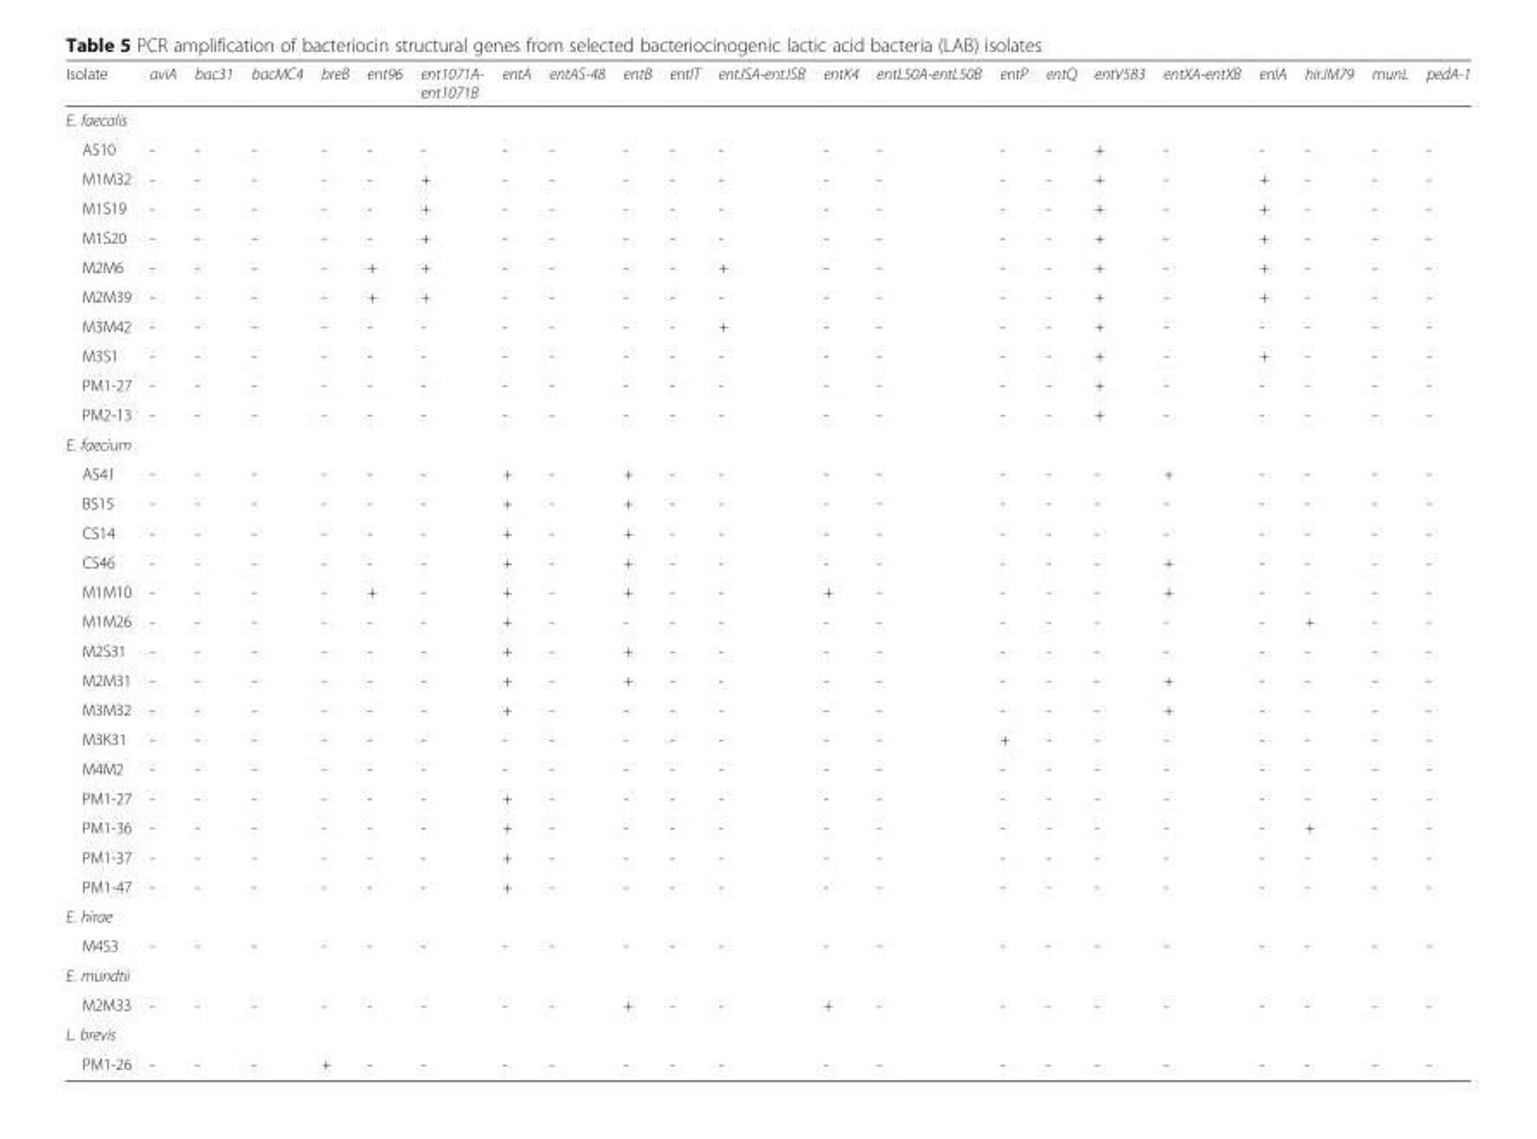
<table><thead><tr><td>Isolate</td><td>aviA</td><td>bac31</td><td>bacMC4</td><td>breB</td><td>ent96</td><td>ent1071A- ent1071B</td><td>entA</td><td>entAS-48</td><td>entB</td><td>entIT</td><td>entJSA-entJSB</td><td>entK4</td><td>entL50A-entL50B</td><td>entP</td><td>entQ</td><td>entV583</td><td>entXA-entXB</td><td>enlA</td><td>hirJM79</td><td>munL</td><td>pedA-1</td></tr></thead><tbody><tr><td colspan="22">E. faecalis</td></tr><tr><td>AS10</td><td>-</td><td>-</td><td>-</td><td>-</td><td>-</td><td>-</td><td>-</td><td>-</td><td>-</td><td>-</td><td>-</td><td>-</td><td>-</td><td>-</td><td>-</td><td>+</td><td>-</td><td>-</td><td>-</td><td>-</td><td>-</td></tr><tr><td>M1M32</td><td>-</td><td>-</td><td>-</td><td>-</td><td>-</td><td>+</td><td>-</td><td>-</td><td>-</td><td>-</td><td>-</td><td>-</td><td>-</td><td>-</td><td>-</td><td>+</td><td>-</td><td>+</td><td>-</td><td>-</td><td>-</td></tr><tr><td>M1S19</td><td>-</td><td>-</td><td>-</td><td>-</td><td>-</td><td>+</td><td>-</td><td>-</td><td>-</td><td>-</td><td>-</td><td>-</td><td>-</td><td>-</td><td>-</td><td>+</td><td>-</td><td>+</td><td>-</td><td>-</td><td>-</td></tr><tr><td>M1S20</td><td>-</td><td>-</td><td>-</td><td>-</td><td>-</td><td>+</td><td>-</td><td>-</td><td>-</td><td>-</td><td>-</td><td>-</td><td>-</td><td>-</td><td>-</td><td>+</td><td>-</td><td>+</td><td>-</td><td>-</td><td>-</td></tr><tr><td>M2M6</td><td>-</td><td>-</td><td>-</td><td>-</td><td>+</td><td>+</td><td>-</td><td>-</td><td>-</td><td>-</td><td>+</td><td>-</td><td>-</td><td>-</td><td>-</td><td>+</td><td>-</td><td>+</td><td>-</td><td>-</td><td>-</td></tr><tr><td>M2M39</td><td>-</td><td>-</td><td>-</td><td>-</td><td>+</td><td>+</td><td>-</td><td>-</td><td>-</td><td>-</td><td>-</td><td>-</td><td>-</td><td>-</td><td>-</td><td>+</td><td>-</td><td>+</td><td>-</td><td>-</td><td>-</td></tr><tr><td>M3M42</td><td>-</td><td>-</td><td>-</td><td>-</td><td>-</td><td>-</td><td>-</td><td>-</td><td>-</td><td>-</td><td>+</td><td>-</td><td>-</td><td>-</td><td>-</td><td>+</td><td>-</td><td>-</td><td>-</td><td>-</td><td>-</td></tr><tr><td>M3S1</td><td>-</td><td>-</td><td>-</td><td>-</td><td>-</td><td>-</td><td>-</td><td>-</td><td>-</td><td>-</td><td>-</td><td>-</td><td>-</td><td>-</td><td>-</td><td>+</td><td>-</td><td>+</td><td>-</td><td>-</td><td>-</td></tr><tr><td>PM1-27</td><td>-</td><td>-</td><td>-</td><td>-</td><td>-</td><td>-</td><td>-</td><td>-</td><td>-</td><td>-</td><td>-</td><td>-</td><td>-</td><td>-</td><td>-</td><td>+</td><td>-</td><td>-</td><td>-</td><td>-</td><td>-</td></tr><tr><td>PM2-13</td><td>-</td><td>-</td><td>-</td><td>-</td><td>-</td><td>-</td><td>-</td><td>-</td><td>-</td><td>-</td><td>-</td><td>-</td><td>-</td><td>-</td><td>-</td><td>+</td><td>-</td><td>-</td><td>-</td><td>-</td><td>-</td></tr><tr><td colspan="22">E. faecium</td></tr><tr><td>AS41</td><td>-</td><td>-</td><td>-</td><td>-</td><td>-</td><td>-</td><td>+</td><td>-</td><td>+</td><td>-</td><td>-</td><td>-</td><td>-</td><td>-</td><td>-</td><td>-</td><td>+</td><td>-</td><td>-</td><td>-</td><td>-</td></tr><tr><td>BS15</td><td>-</td><td>-</td><td>-</td><td>-</td><td>-</td><td>-</td><td>+</td><td>-</td><td>+</td><td>-</td><td>-</td><td>-</td><td>-</td><td>-</td><td>-</td><td>-</td><td>-</td><td>-</td><td>-</td><td>-</td><td>-</td></tr><tr><td>CS14</td><td>-</td><td>-</td><td>-</td><td>-</td><td>-</td><td>-</td><td>+</td><td>-</td><td>+</td><td>-</td><td>-</td><td>-</td><td>-</td><td>-</td><td>-</td><td>-</td><td>-</td><td>-</td><td>-</td><td>-</td><td>-</td></tr><tr><td>CS46</td><td>-</td><td>-</td><td>-</td><td>-</td><td>-</td><td>-</td><td>+</td><td>-</td><td>+</td><td>-</td><td>-</td><td>-</td><td>-</td><td>-</td><td>-</td><td>-</td><td>+</td><td>-</td><td>-</td><td>-</td><td>-</td></tr><tr><td>M1M10</td><td>-</td><td>-</td><td>-</td><td>-</td><td>+</td><td>-</td><td>+</td><td>-</td><td>+</td><td>-</td><td>-</td><td>+</td><td>-</td><td>-</td><td>-</td><td>-</td><td>+</td><td>-</td><td>-</td><td>-</td><td>-</td></tr><tr><td>M1M26</td><td>-</td><td>-</td><td>-</td><td>-</td><td>-</td><td>-</td><td>+</td><td>-</td><td>-</td><td>-</td><td>-</td><td>-</td><td>-</td><td>-</td><td>-</td><td>-</td><td>-</td><td>-</td><td>+</td><td>-</td><td>-</td></tr><tr><td>M2S31</td><td>-</td><td>-</td><td>-</td><td>-</td><td>-</td><td>-</td><td>+</td><td>-</td><td>+</td><td>-</td><td>-</td><td>-</td><td>-</td><td>-</td><td>-</td><td>-</td><td>-</td><td>-</td><td>-</td><td>-</td><td>-</td></tr><tr><td>M2M31</td><td>-</td><td>-</td><td>-</td><td>-</td><td>-</td><td>-</td><td>+</td><td>-</td><td>+</td><td>-</td><td>-</td><td>-</td><td>-</td><td>-</td><td>-</td><td>-</td><td>+</td><td>-</td><td>-</td><td>-</td><td>-</td></tr><tr><td>M3M32</td><td>-</td><td>-</td><td>-</td><td>-</td><td>-</td><td>-</td><td>+</td><td>-</td><td>-</td><td>-</td><td>-</td><td>-</td><td>-</td><td>-</td><td>-</td><td>-</td><td>+</td><td>-</td><td>-</td><td>-</td><td>-</td></tr><tr><td>M3K31</td><td>-</td><td>-</td><td>-</td><td>-</td><td>-</td><td>-</td><td>-</td><td>-</td><td>-</td><td>-</td><td>-</td><td>-</td><td>-</td><td>+</td><td>-</td><td>-</td><td>-</td><td>-</td><td>-</td><td>-</td><td>-</td></tr><tr><td>M4M2</td><td>-</td><td>-</td><td>-</td><td>-</td><td>-</td><td>-</td><td>-</td><td>-</td><td>-</td><td>-</td><td>-</td><td>-</td><td>-</td><td>-</td><td>-</td><td>-</td><td>-</td><td>-</td><td>-</td><td>-</td><td>-</td></tr><tr><td>PM1-27</td><td>-</td><td>-</td><td>-</td><td>-</td><td>-</td><td>-</td><td>+</td><td>-</td><td>-</td><td>-</td><td>-</td><td>-</td><td>-</td><td>-</td><td>-</td><td>-</td><td>-</td><td>-</td><td>-</td><td>-</td><td>-</td></tr><tr><td>PM1-36</td><td>-</td><td>-</td><td>-</td><td>-</td><td>-</td><td>-</td><td>+</td><td>-</td><td>-</td><td>-</td><td>-</td><td>-</td><td>-</td><td>-</td><td>-</td><td>-</td><td>-</td><td>-</td><td>+</td><td>-</td><td>-</td></tr><tr><td>PM1-37</td><td>-</td><td>-</td><td>-</td><td>-</td><td>-</td><td>-</td><td>+</td><td>-</td><td>-</td><td>-</td><td>-</td><td>-</td><td>-</td><td>-</td><td>-</td><td>-</td><td>-</td><td>-</td><td>-</td><td>-</td><td>-</td></tr><tr><td>PM1-47</td><td>-</td><td>-</td><td>-</td><td>-</td><td>-</td><td>-</td><td>+</td><td>-</td><td>-</td><td>-</td><td>-</td><td>-</td><td>-</td><td>-</td><td>-</td><td>-</td><td>-</td><td>-</td><td>-</td><td>-</td><td>-</td></tr><tr><td colspan="22">E. hirae</td></tr><tr><td>M4S3</td><td>-</td><td>-</td><td>-</td><td>-</td><td>-</td><td>-</td><td>-</td><td>-</td><td>-</td><td>-</td><td>-</td><td>-</td><td>-</td><td>-</td><td>-</td><td>-</td><td>-</td><td>-</td><td>-</td><td>-</td><td>-</td></tr><tr><td colspan="22">E. mundtii</td></tr><tr><td>M2M33</td><td>-</td><td>-</td><td>-</td><td>-</td><td>-</td><td>-</td><td>-</td><td>-</td><td>+</td><td>-</td><td>-</td><td>+</td><td>-</td><td>-</td><td>-</td><td>-</td><td>-</td><td>-</td><td>-</td><td>-</td><td>-</td></tr><tr><td colspan="22">L. brevis</td></tr><tr><td>PM1-26</td><td>-</td><td>-</td><td>-</td><td>+</td><td>-</td><td>-</td><td>-</td><td>-</td><td>-</td><td>-</td><td>-</td><td>-</td><td>-</td><td>-</td><td>-</td><td>-</td><td>-</td><td>-</td><td>-</td><td>-</td><td>-</td></tr></tbody></table>